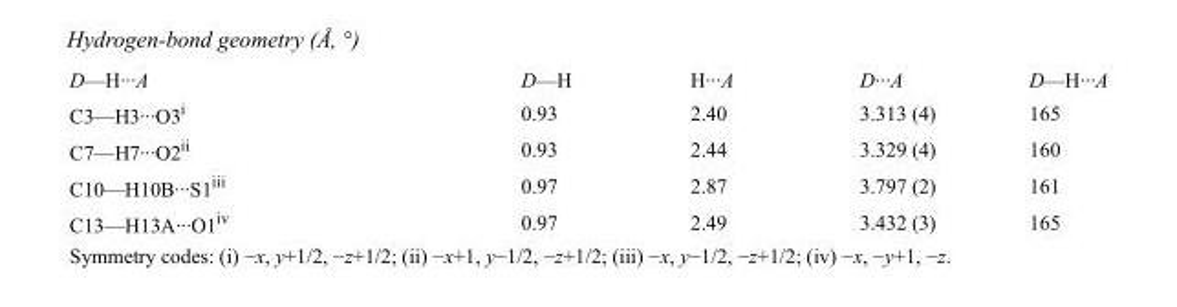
<table><tbody><tr><td>D—H···A</td><td>D—H</td><td>H···A</td><td>D···A</td><td>D—H···A</td></tr><tr><td>C3—H3···O3<sup>i</sup></td><td>0.93</td><td>2.40</td><td>3.313 (4)</td><td>165</td></tr><tr><td>C7—H7···O2<sup>ii</sup></td><td>0.93</td><td>2.44</td><td>3.329 (4)</td><td>160</td></tr><tr><td>C10—H10B···S1<sup>iii</sup></td><td>0.97</td><td>2.87</td><td>3.797 (2)</td><td>161</td></tr><tr><td>C13—H13A···O1<sup>iv</sup></td><td>0.97</td><td>2.49</td><td>3.432 (3)</td><td>165</td></tr></tbody></table>